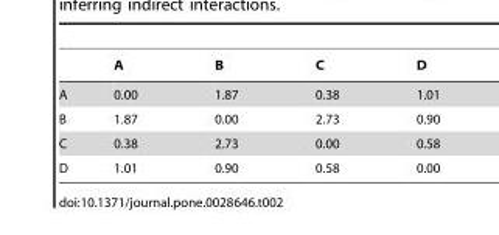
<table><thead><tr><td></td><td>A</td><td>B</td><td>C</td><td>D</td></tr></thead><tbody><tr><td>A</td><td>0.00</td><td>1.87</td><td>0.38</td><td>1.01</td></tr><tr><td>B</td><td>1.87</td><td>0.00</td><td>2.73</td><td>0.90</td></tr><tr><td>C</td><td>0.38</td><td>2.73</td><td>0.00</td><td>0.58</td></tr><tr><td>D</td><td>1.01</td><td>0.90</td><td>0.58</td><td>0.00</td></tr></tbody></table>